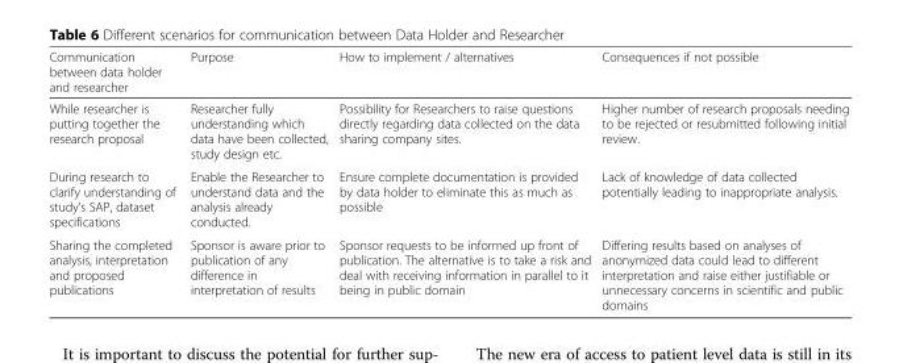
<table><thead><tr><td>Communication between data holder and researcher</td><td>Purpose</td><td>How to implement / alternatives</td><td>Consequences if not possible</td></tr></thead><tbody><tr><td>While researcher is putting together the research proposal</td><td>Researcher fully understanding which data have been collected, study design etc.</td><td>Possibility for Researchers to raise questions directly regarding data collected on the data sharing company sites.</td><td>Higher number of research proposals needing to be rejected or resubmitted following initial review.</td></tr><tr><td>During research to clarify understanding of study’s SAP, dataset specifications</td><td>Enable the Researcher to understand data and the analysis already conducted.</td><td>Ensure complete documentation is provided by data holder to eliminate this as much as possible</td><td>Lack of knowledge of data collected potentially leading to inappropriate analysis.</td></tr><tr><td>Sharing the completed analysis, interpretation and proposed publications</td><td>Sponsor is aware prior to publication of any difference in interpretation of results</td><td>Sponsor requests to be informed up front of publication. The alternative is to take a risk and deal with receiving information in parallel to it being in public domain</td><td>Differing results based on analyses of anonymized data could lead to different interpretation and raise either justifiable or unnecessary concerns in scientific and public domains</td></tr></tbody></table>